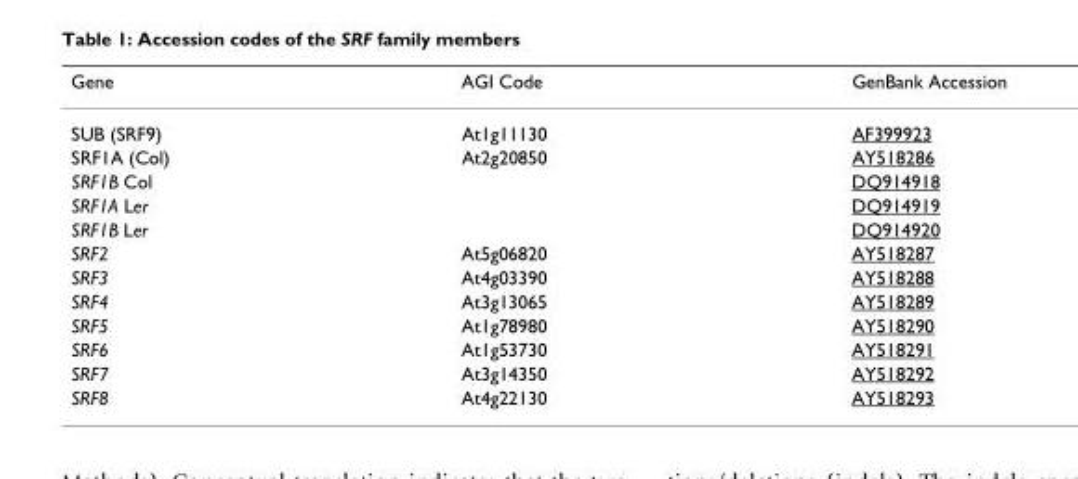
<table><thead><tr><td>Gene</td><td>AGI Code</td><td>GenBank Accession</td></tr></thead><tbody><tr><td>SUB (SRF9)</td><td>At1g11130</td><td>AF399923</td></tr><tr><td>SRF1A (Col)</td><td>At2g20850</td><td>AY518286</td></tr><tr><td>SRF1B Col</td><td></td><td>DQ914918</td></tr><tr><td>SRF1A Ler</td><td></td><td>DQ914919</td></tr><tr><td>SRF1B Ler</td><td></td><td>DQ914920</td></tr><tr><td>SRF2</td><td>At5g06820</td><td>AY518287</td></tr><tr><td>SRF3</td><td>At4g03390</td><td>AY518288</td></tr><tr><td>SRF4</td><td>At3g13065</td><td>AY518289</td></tr><tr><td>SRF5</td><td>At1g78980</td><td>AY518290</td></tr><tr><td>SRF6</td><td>At1g53730</td><td>AY518291</td></tr><tr><td>SRF7</td><td>At3g14350</td><td>AY518292</td></tr><tr><td>SRF8</td><td>At4g22130</td><td>AY518293</td></tr></tbody></table>